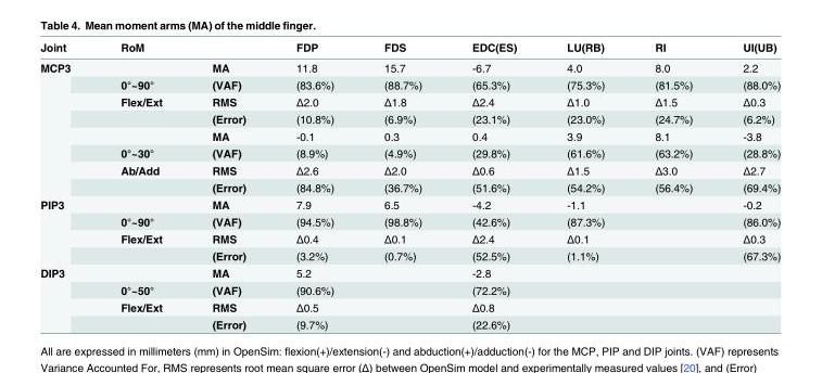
<table><thead><tr><td>Joint</td><td>RoM</td><td></td><td>FDP</td><td>FDS</td><td>EDC(ES)</td><td>LU(RB)</td><td>RI</td><td>UI(UB)</td></tr></thead><tbody><tr><td rowspan="8">MCP3</td><td></td><td>MA</td><td>11.8</td><td>15.7</td><td>-6.7</td><td>4.0</td><td>8.0</td><td>2.2</td></tr><tr><td>0°~90°</td><td>(VAF)</td><td>(83.6%)</td><td>(88.7%)</td><td>(65.3%)</td><td>(75.3%)</td><td>(81.5%)</td><td>(88.0%)</td></tr><tr><td>Flex/Ext</td><td>RMS</td><td>Δ2.0</td><td>Δ1.8</td><td>Δ2.4</td><td>Δ1.0</td><td>Δ1.5</td><td>Δ0.3</td></tr><tr><td></td><td>(Error)</td><td>(10.8%)</td><td>(6.9%)</td><td>(23.1%)</td><td>(23.0%)</td><td>(24.7%)</td><td>(6.2%)</td></tr><tr><td></td><td>MA</td><td>-0.1</td><td>0.3</td><td>0.4</td><td>3.9</td><td>8.1</td><td>-3.8</td></tr><tr><td>0°~30°</td><td>(VAF)</td><td>(8.9%)</td><td>(4.9%)</td><td>(29.8%)</td><td>(61.6%)</td><td>(63.2%)</td><td>(28.8%)</td></tr><tr><td>Ab/Add</td><td>RMS</td><td>Δ2.6</td><td>Δ2.0</td><td>Δ0.6</td><td>Δ1.5</td><td>Δ3.0</td><td>Δ2.7</td></tr><tr><td></td><td>(Error)</td><td>(84.8%)</td><td>(36.7%)</td><td>(51.6%)</td><td>(54.2%)</td><td>(56.4%)</td><td>(69.4%)</td></tr><tr><td rowspan="4">PIP3</td><td></td><td>MA</td><td>7.9</td><td>6.5</td><td>-4.2</td><td>-1.1</td><td></td><td>-0.2</td></tr><tr><td>0°~90°</td><td>(VAF)</td><td>(94.5%)</td><td>(98.8%)</td><td>(42.6%)</td><td>(87.3%)</td><td></td><td>(86.0%)</td></tr><tr><td>Flex/Ext</td><td>RMS</td><td>Δ0.4</td><td>Δ0.1</td><td>Δ2.4</td><td>Δ0.1</td><td></td><td>Δ0.3</td></tr><tr><td></td><td>(Error)</td><td>(3.2%)</td><td>(0.7%)</td><td>(52.5%)</td><td>(1.1%)</td><td></td><td>(67.3%)</td></tr><tr><td rowspan="4">DIP3</td><td></td><td>MA</td><td>5.2</td><td></td><td>-2.8</td><td></td><td></td><td></td></tr><tr><td>0°~50°</td><td>(VAF)</td><td>(90.6%)</td><td></td><td>(72.2%)</td><td></td><td></td><td></td></tr><tr><td>Flex/Ext</td><td>RMS</td><td>Δ0.5</td><td></td><td>Δ0.8</td><td></td><td></td><td></td></tr><tr><td></td><td>(Error)</td><td>(9.7%)</td><td></td><td>(22.6%)</td><td></td><td></td><td></td></tr></tbody></table>